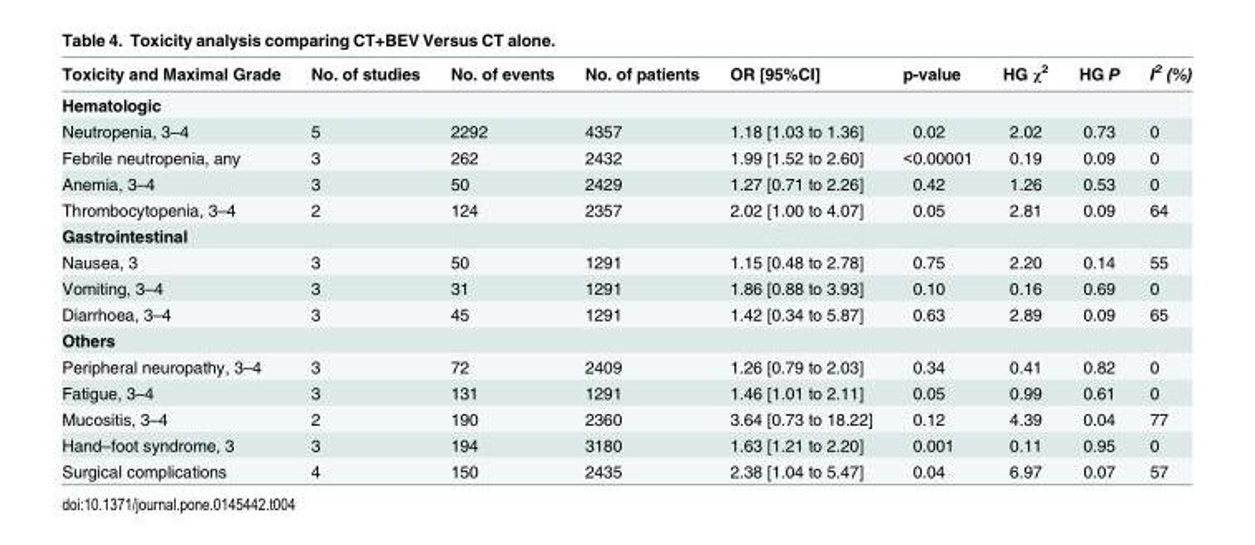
<table><thead><tr><td>Toxicity and Maximal Grade</td><td>No. of studies</td><td>No. of events</td><td>No. of patients</td><td>OR [95%CI]</td><td>p-value</td><td>HG χ<sup>2</sup></td><td>HG P</td><td>I<sup>2</sup> (%)</td></tr></thead><tbody><tr><td colspan="9">Hematologic</td></tr><tr><td>Neutropenia, 3–4</td><td>5</td><td>2292</td><td>4357</td><td>1.18 [1.03 to 1.36]</td><td>0.02</td><td>2.02</td><td>0.73</td><td>0</td></tr><tr><td>Febrile neutropenia, any</td><td>3</td><td>262</td><td>2432</td><td>1.99 [1.52 to 2.60]</td><td>&lt;0.00001</td><td>0.19</td><td>0.09</td><td>0</td></tr><tr><td>Anemia, 3–4</td><td>3</td><td>50</td><td>2429</td><td>1.27 [0.71 to 2.26]</td><td>0.42</td><td>1.26</td><td>0.53</td><td>0</td></tr><tr><td>Thrombocytopenia, 3–4</td><td>2</td><td>124</td><td>2357</td><td>2.02 [1.00 to 4.07]</td><td>0.05</td><td>2.81</td><td>0.09</td><td>64</td></tr><tr><td colspan="9">Gastrointestinal</td></tr><tr><td>Nausea, 3</td><td>3</td><td>50</td><td>1291</td><td>1.15 [0.48 to 2.78]</td><td>0.75</td><td>2.20</td><td>0.14</td><td>55</td></tr><tr><td>Vomiting, 3–4</td><td>3</td><td>31</td><td>1291</td><td>1.86 [0.88 to 3.93]</td><td>0.10</td><td>0.16</td><td>0.69</td><td>0</td></tr><tr><td>Diarrhoea, 3–4</td><td>3</td><td>45</td><td>1291</td><td>1.42 [0.34 to 5.87]</td><td>0.63</td><td>2.89</td><td>0.09</td><td>65</td></tr><tr><td colspan="9">Others</td></tr><tr><td>Peripheral neuropathy, 3–4</td><td>3</td><td>72</td><td>2409</td><td>1.26 [0.79 to 2.03]</td><td>0.34</td><td>0.41</td><td>0.82</td><td>0</td></tr><tr><td>Fatigue, 3–4</td><td>3</td><td>131</td><td>1291</td><td>1.46 [1.01 to 2.11]</td><td>0.05</td><td>0.99</td><td>0.61</td><td>0</td></tr><tr><td>Mucositis, 3–4</td><td>2</td><td>190</td><td>2360</td><td>3.64 [0.73 to 18.22]</td><td>0.12</td><td>4.39</td><td>0.04</td><td>77</td></tr><tr><td>Hand–foot syndrome, 3</td><td>3</td><td>194</td><td>3180</td><td>1.63 [1.21 to 2.20]</td><td>0.001</td><td>0.11</td><td>0.95</td><td>0</td></tr><tr><td>Surgical complications</td><td>4</td><td>150</td><td>2435</td><td>2.38 [1.04 to 5.47]</td><td>0.04</td><td>6.97</td><td>0.07</td><td>57</td></tr></tbody></table>